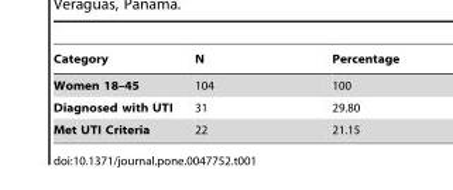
<table><thead><tr><td>Category</td><td>N</td><td>Percentage</td></tr></thead><tbody><tr><td>Women 18–45</td><td>104</td><td>100</td></tr><tr><td>Diagnosed with UTI</td><td>31</td><td>29.80</td></tr><tr><td>Met UTI Criteria</td><td>22</td><td>21.15</td></tr></tbody></table>